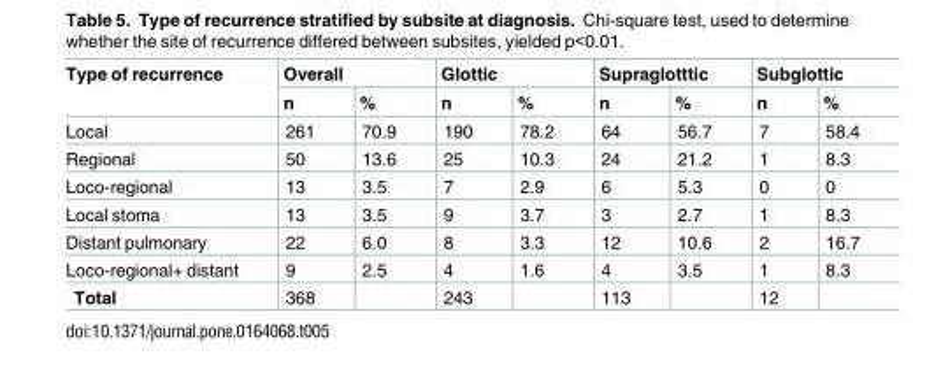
<table><thead><tr><td rowspan="2">Type of recurrence</td><td colspan="2">Overall</td><td colspan="2">Glottic</td><td colspan="2">Supraglotttic</td><td colspan="2">Subglottic</td></tr><tr><td>n</td><td>%</td><td>n</td><td>%</td><td>n</td><td>%</td><td>n</td><td>%</td></tr></thead><tbody><tr><td>Local</td><td>261</td><td>70.9</td><td>190</td><td>78.2</td><td>64</td><td>56.7</td><td>7</td><td>58.4</td></tr><tr><td>Regional</td><td>50</td><td>13.6</td><td>25</td><td>10.3</td><td>24</td><td>21.2</td><td>1</td><td>8.3</td></tr><tr><td>Loco-regional</td><td>13</td><td>3.5</td><td>7</td><td>2.9</td><td>6</td><td>5.3</td><td>0</td><td>0</td></tr><tr><td>Local stoma</td><td>13</td><td>3.5</td><td>9</td><td>3.7</td><td>3</td><td>2.7</td><td>1</td><td>8.3</td></tr><tr><td>Distant pulmonary</td><td>22</td><td>6.0</td><td>8</td><td>3.3</td><td>12</td><td>10.6</td><td>2</td><td>16.7</td></tr><tr><td>Loco-regional+ distant</td><td>9</td><td>2.5</td><td>4</td><td>1.6</td><td>4</td><td>3.5</td><td>1</td><td>8.3</td></tr><tr><td>Total</td><td>368</td><td></td><td>243</td><td></td><td>113</td><td></td><td>12</td><td></td></tr></tbody></table>